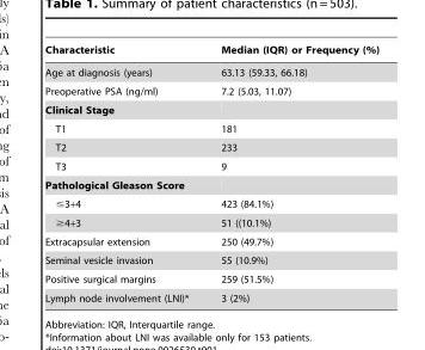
<table><thead><tr><td>Characteristic</td><td>Median (IQR) or Frequency (%)</td></tr></thead><tbody><tr><td>Age at diagnosis (years)</td><td>63.13 (59.33, 66.18)</td></tr><tr><td>Preoperative PSA (ng/ml)</td><td>7.2 (5.03, 11.07)</td></tr><tr><td colspan="2">Clinical Stage</td></tr><tr><td>T1</td><td>181</td></tr><tr><td>T2</td><td>233</td></tr><tr><td>T3</td><td>9</td></tr><tr><td colspan="2">Pathological Gleason Score</td></tr><tr><td>≤3+4</td><td>423 (84.1%)</td></tr><tr><td>≥4+3</td><td>51 ((10.1%)</td></tr><tr><td>Extracapsular extension</td><td>250 (49.7%)</td></tr><tr><td>Seminal vesicle invasion</td><td>55 (10.9%)</td></tr><tr><td>Positive surgical margins</td><td>259 (51.5%)</td></tr><tr><td>Lymph node involvement (LNI)*</td><td>3 (2%)</td></tr></tbody></table>